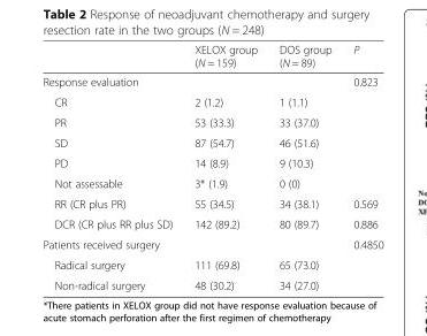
<table><thead><tr><td></td><td>XELOX group (N = 159)</td><td>DOS group (N = 89)</td><td>P</td></tr></thead><tbody><tr><td>Response evaluation</td><td></td><td></td><td>0.823</td></tr><tr><td>CR</td><td>2 (1.2)</td><td>1 (1.1)</td><td></td></tr><tr><td>PR</td><td>53 (33.3)</td><td>33 (37.0)</td><td></td></tr><tr><td>SD</td><td>87 (54.7)</td><td>46 (51.6)</td><td></td></tr><tr><td>PD</td><td>14 (8.9)</td><td>9 (10.3)</td><td></td></tr><tr><td>Not assessable</td><td>3* (1.9)</td><td>0 (0)</td><td></td></tr><tr><td>RR (CR plus PR)</td><td>55 (34.5)</td><td>34 (38.1)</td><td>0.569</td></tr><tr><td>DCR (CR plus RR plus SD)</td><td>142 (89.2)</td><td>80 (89.7)</td><td>0.886</td></tr><tr><td>Patients received surgery</td><td></td><td></td><td>0.4850</td></tr><tr><td>Radical surgery</td><td>111 (69.8)</td><td>65 (73.0)</td><td></td></tr><tr><td>Non-radical surgery</td><td>48 (30.2)</td><td>34 (27.0)</td><td></td></tr></tbody></table>